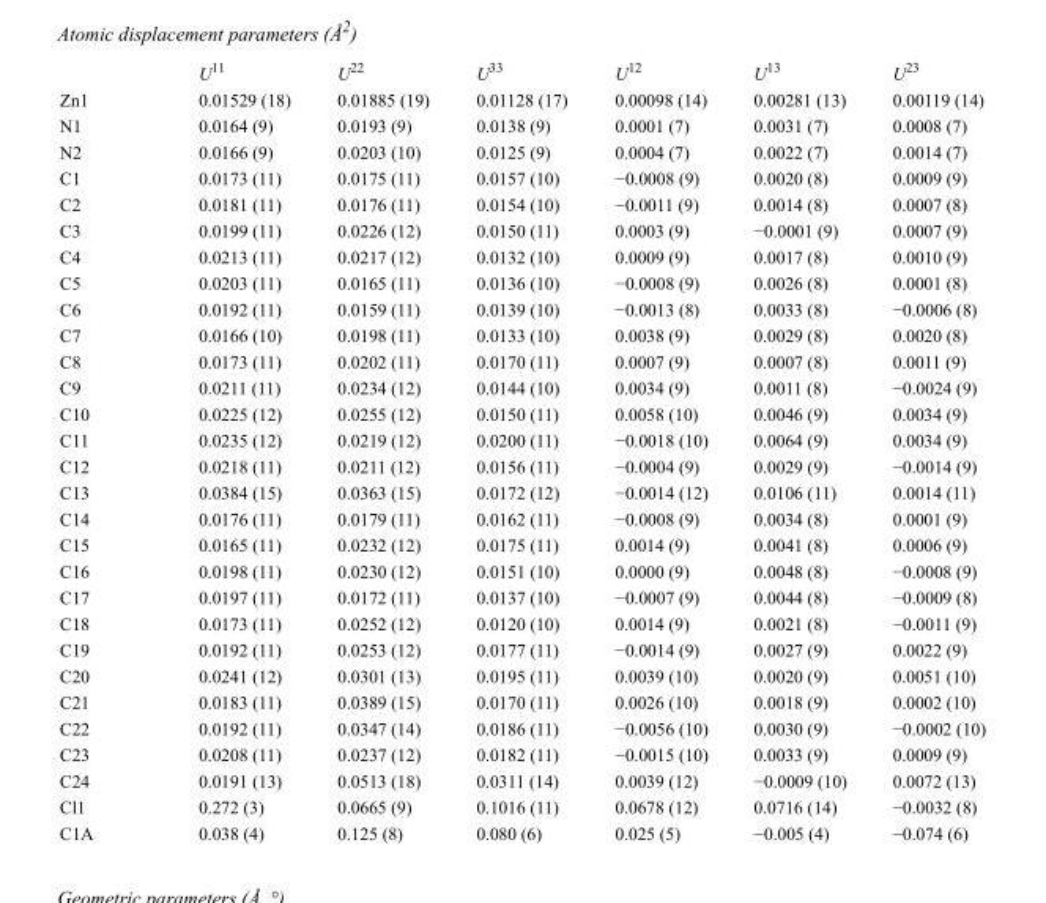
<table><thead><tr><td></td><td>U<sup>11</sup></td><td>U<sup>22</sup></td><td>U<sup>33</sup></td><td>U<sup>12</sup></td><td>U<sup>13</sup></td><td>U<sup>23</sup></td></tr></thead><tbody><tr><td>Zn1</td><td>0.01529 (18)</td><td>0.01885 (19)</td><td>0.01128 (17)</td><td>0.00098 (14)</td><td>0.00281 (13)</td><td>0.00119 (14)</td></tr><tr><td>N1</td><td>0.0164 (9)</td><td>0.0193 (9)</td><td>0.0138 (9)</td><td>0.0001 (7)</td><td>0.0031 (7)</td><td>0.0008 (7)</td></tr><tr><td>N2</td><td>0.0166 (9)</td><td>0.0203 (10)</td><td>0.0125 (9)</td><td>0.0004 (7)</td><td>0.0022 (7)</td><td>0.0014 (7)</td></tr><tr><td>C1</td><td>0.0173 (11)</td><td>0.0175 (11)</td><td>0.0157 (10)</td><td>−0.0008 (9)</td><td>0.0020 (8)</td><td>0.0009 (9)</td></tr><tr><td>C2</td><td>0.0181 (11)</td><td>0.0176 (11)</td><td>0.0154 (10)</td><td>−0.0011 (9)</td><td>0.0014 (8)</td><td>0.0007 (8)</td></tr><tr><td>C3</td><td>0.0199 (11)</td><td>0.0226 (12)</td><td>0.0150 (11)</td><td>0.0003 (9)</td><td>−0.0001 (9)</td><td>0.0007 (9)</td></tr><tr><td>C4</td><td>0.0213 (11)</td><td>0.0217 (12)</td><td>0.0132 (10)</td><td>0.0009 (9)</td><td>0.0017 (8)</td><td>0.0010 (9)</td></tr><tr><td>C5</td><td>0.0203 (11)</td><td>0.0165 (11)</td><td>0.0136 (10)</td><td>−0.0008 (9)</td><td>0.0026 (8)</td><td>0.0001 (8)</td></tr><tr><td>C6</td><td>0.0192 (11)</td><td>0.0159 (11)</td><td>0.0139 (10)</td><td>−0.0013 (8)</td><td>0.0033 (8)</td><td>−0.0006 (8)</td></tr><tr><td>C7</td><td>0.0166 (10)</td><td>0.0198 (11)</td><td>0.0133 (10)</td><td>0.0038 (9)</td><td>0.0029 (8)</td><td>0.0020 (8)</td></tr><tr><td>C8</td><td>0.0173 (11)</td><td>0.0202 (11)</td><td>0.0170 (11)</td><td>0.0007 (9)</td><td>0.0007 (8)</td><td>0.0011 (9)</td></tr><tr><td>C9</td><td>0.0211 (11)</td><td>0.0234 (12)</td><td>0.0144 (10)</td><td>0.0034 (9)</td><td>0.0011 (8)</td><td>−0.0024 (9)</td></tr><tr><td>C10</td><td>0.0225 (12)</td><td>0.0255 (12)</td><td>0.0150 (11)</td><td>0.0058 (10)</td><td>0.0046 (9)</td><td>0.0034 (9)</td></tr><tr><td>C11</td><td>0.0235 (12)</td><td>0.0219 (12)</td><td>0.0200 (11)</td><td>−0.0018 (10)</td><td>0.0064 (9)</td><td>0.0034 (9)</td></tr><tr><td>C12</td><td>0.0218 (11)</td><td>0.0211 (12)</td><td>0.0156 (11)</td><td>−0.0004 (9)</td><td>0.0029 (9)</td><td>−0.0014 (9)</td></tr><tr><td>C13</td><td>0.0384 (15)</td><td>0.0363 (15)</td><td>0.0172 (12)</td><td>−0.0014 (12)</td><td>0.0106 (11)</td><td>0.0014 (11)</td></tr><tr><td>C14</td><td>0.0176 (11)</td><td>0.0179 (11)</td><td>0.0162 (11)</td><td>−0.0008 (9)</td><td>0.0034 (8)</td><td>0.0001 (9)</td></tr><tr><td>C15</td><td>0.0165 (11)</td><td>0.0232 (12)</td><td>0.0175 (11)</td><td>0.0014 (9)</td><td>0.0041 (8)</td><td>0.0006 (9)</td></tr><tr><td>C16</td><td>0.0198 (11)</td><td>0.0230 (12)</td><td>0.0151 (10)</td><td>0.0000 (9)</td><td>0.0048 (8)</td><td>−0.0008 (9)</td></tr><tr><td>C17</td><td>0.0197 (11)</td><td>0.0172 (11)</td><td>0.0137 (10)</td><td>−0.0007 (9)</td><td>0.0044 (8)</td><td>−0.0009 (8)</td></tr><tr><td>C18</td><td>0.0173 (11)</td><td>0.0252 (12)</td><td>0.0120 (10)</td><td>0.0014 (9)</td><td>0.0021 (8)</td><td>−0.0011 (9)</td></tr><tr><td>C19</td><td>0.0192 (11)</td><td>0.0253 (12)</td><td>0.0177 (11)</td><td>−0.0014 (9)</td><td>0.0027 (9)</td><td>0.0022 (9)</td></tr><tr><td>C20</td><td>0.0241 (12)</td><td>0.0301 (13)</td><td>0.0195 (11)</td><td>0.0039 (10)</td><td>0.0020 (9)</td><td>0.0051 (10)</td></tr><tr><td>C21</td><td>0.0183 (11)</td><td>0.0389 (15)</td><td>0.0170 (11)</td><td>0.0026 (10)</td><td>0.0018 (9)</td><td>0.0002 (10)</td></tr><tr><td>C22</td><td>0.0192 (11)</td><td>0.0347 (14)</td><td>0.0186 (11)</td><td>−0.0056 (10)</td><td>0.0030 (9)</td><td>−0.0002 (10)</td></tr><tr><td>C23</td><td>0.0208 (11)</td><td>0.0237 (12)</td><td>0.0182 (11)</td><td>−0.0015 (10)</td><td>0.0033 (9)</td><td>0.0009 (9)</td></tr><tr><td>C24</td><td>0.0191 (13)</td><td>0.0513 (18)</td><td>0.0311 (14)</td><td>0.0039 (12)</td><td>−0.0009 (10)</td><td>0.0072 (13)</td></tr><tr><td>Cl1</td><td>0.272 (3)</td><td>0.0665 (9)</td><td>0.1016 (11)</td><td>0.0678 (12)</td><td>0.0716 (14)</td><td>−0.0032 (8)</td></tr><tr><td>C1A</td><td>0.038 (4)</td><td>0.125 (8)</td><td>0.080 (6)</td><td>0.025 (5)</td><td>−0.005 (4)</td><td>−0.074 (6)</td></tr></tbody></table>